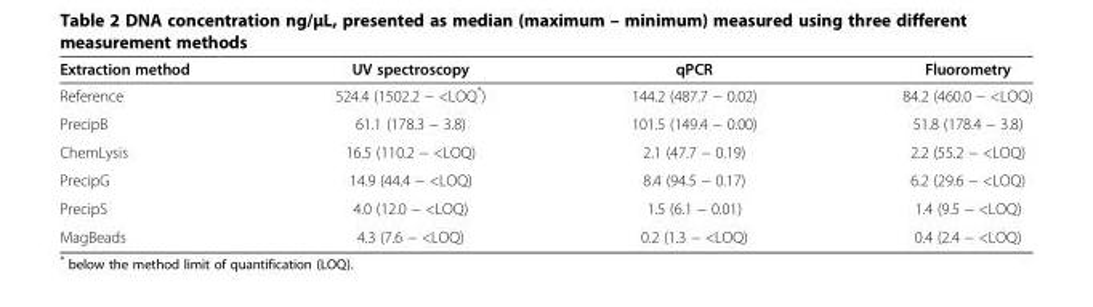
<table><thead><tr><td>Extraction method</td><td>UV spectroscopy</td><td>qPCR</td><td>Fluorometry</td></tr></thead><tbody><tr><td>Reference</td><td>524.4 (1502.2 − &lt;LOQ*)</td><td>144.2 (487.7 − 0.02)</td><td>84.2 (460.0 − &lt;LOQ)</td></tr><tr><td>PrecipB</td><td>61.1 (178.3 − 3.8)</td><td>101.5 (149.4 − 0.00)</td><td>51.8 (178.4 − 3.8)</td></tr><tr><td>ChemLysis</td><td>16.5 (110.2 − &lt;LOQ)</td><td>2.1 (47.7 − 0.19)</td><td>2.2 (55.2 − &lt;LOQ)</td></tr><tr><td>PrecipG</td><td>14.9 (44.4 − &lt;LOQ)</td><td>8.4 (94.5 − 0.17)</td><td>6.2 (29.6 − &lt;LOQ)</td></tr><tr><td>PrecipS</td><td>4.0 (12.0 − &lt;LOQ)</td><td>1.5 (6.1 − 0.01)</td><td>1.4 (9.5 − &lt;LOQ)</td></tr><tr><td>MagBeads</td><td>4.3 (7.6 − &lt;LOQ)</td><td>0.2 (1.3 − &lt;LOQ)</td><td>0.4 (2.4 − &lt;LOQ)</td></tr></tbody></table>